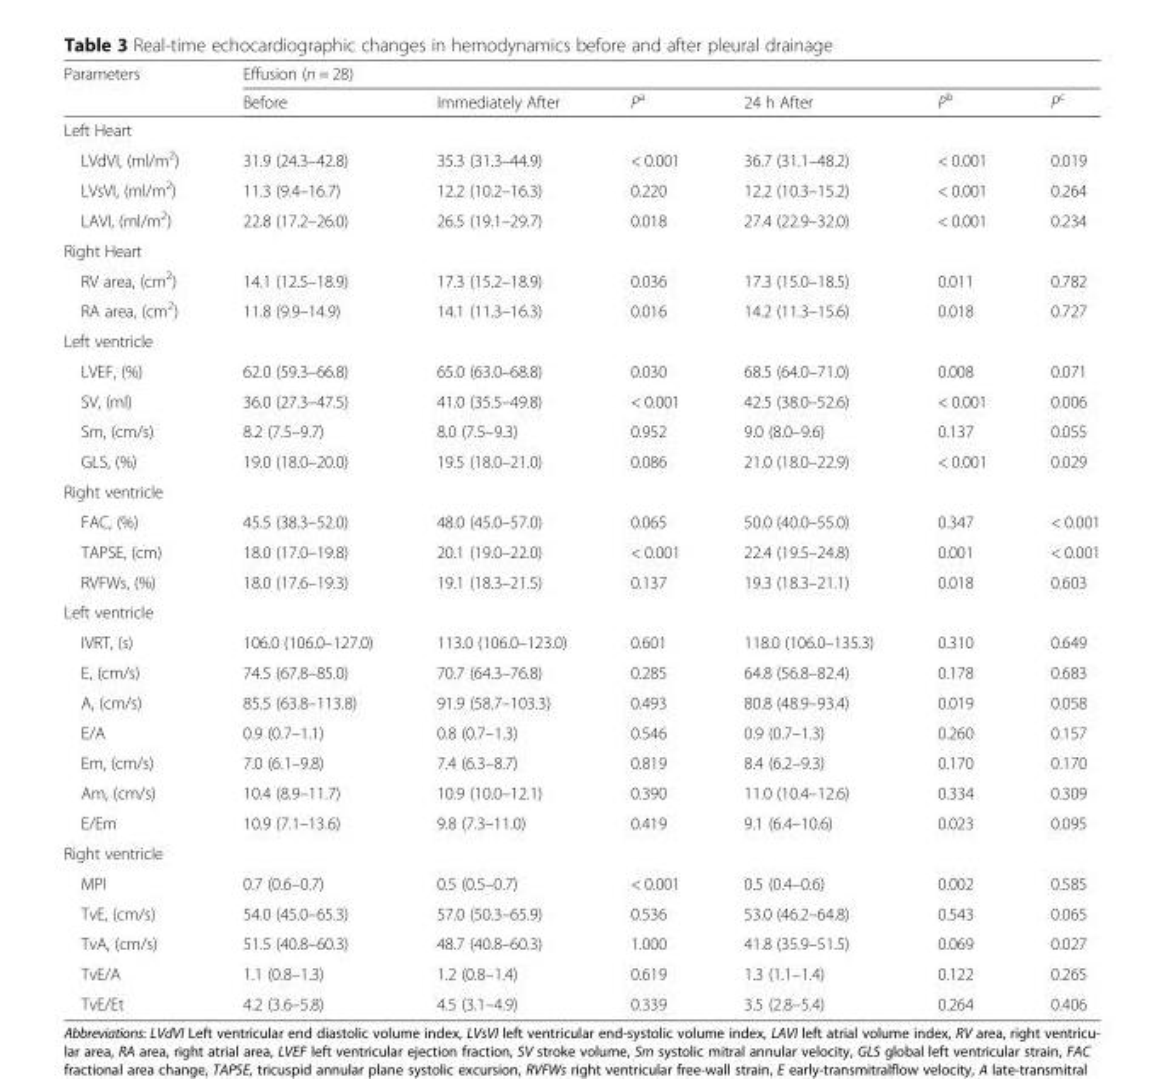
<table><thead><tr><td rowspan="2">Parameters</td><td colspan="6">Effusion (n = 28)</td></tr><tr><td>Before</td><td>Immediately After</td><td>P<sup>a</sup></td><td>24 h After</td><td>P<sup>b</sup></td><td>P<sup>c</sup></td></tr></thead><tbody><tr><td colspan="7">Left Heart</td></tr><tr><td>LVdVI, (ml/m<sup>2</sup>)</td><td>31.9 (24.3–42.8)</td><td>35.3 (31.3–44.9)</td><td>&lt; 0.001</td><td>36.7 (31.1–48.2)</td><td>&lt; 0.001</td><td>0.019</td></tr><tr><td>LVsVI, (ml/m<sup>2</sup>)</td><td>11.3 (9.4–16.7)</td><td>12.2 (10.2–16.3)</td><td>0.220</td><td>12.2 (10.3–15.2)</td><td>&lt; 0.001</td><td>0.264</td></tr><tr><td>LAVI, (ml/m<sup>2</sup>)</td><td>22.8 (17.2–26.0)</td><td>26.5 (19.1–29.7)</td><td>0.018</td><td>27.4 (22.9–32.0)</td><td>&lt; 0.001</td><td>0.234</td></tr><tr><td colspan="7">Right Heart</td></tr><tr><td>RV area, (cm<sup>2</sup>)</td><td>14.1 (12.5–18.9)</td><td>17.3 (15.2–18.9)</td><td>0.036</td><td>17.3 (15.0–18.5)</td><td>0.011</td><td>0.782</td></tr><tr><td>RA area, (cm<sup>2</sup>)</td><td>11.8 (9.9–14.9)</td><td>14.1 (11.3–16.3)</td><td>0.016</td><td>14.2 (11.3–15.6)</td><td>0.018</td><td>0.727</td></tr><tr><td colspan="7">Left ventricle</td></tr><tr><td>LVEF, (%)</td><td>62.0 (59.3–66.8)</td><td>65.0 (63.0–68.8)</td><td>0.030</td><td>68.5 (64.0–71.0)</td><td>0.008</td><td>0.071</td></tr><tr><td>SV, (ml)</td><td>36.0 (27.3–47.5)</td><td>41.0 (35.5–49.8)</td><td>&lt; 0.001</td><td>42.5 (38.0–52.6)</td><td>&lt; 0.001</td><td>0.006</td></tr><tr><td>Sm, (cm/s)</td><td>8.2 (7.5–9.7)</td><td>8.0 (7.5–9.3)</td><td>0.952</td><td>9.0 (8.0–9.6)</td><td>0.137</td><td>0.055</td></tr><tr><td>GLS, (%)</td><td>19.0 (18.0–20.0)</td><td>19.5 (18.0–21.0)</td><td>0.086</td><td>21.0 (18.0–22.9)</td><td>&lt; 0.001</td><td>0.029</td></tr><tr><td colspan="7">Right ventricle</td></tr><tr><td>FAC, (%)</td><td>45.5 (38.3–52.0)</td><td>48.0 (45.0–57.0)</td><td>0.065</td><td>50.0 (40.0–55.0)</td><td>0.347</td><td>&lt; 0.001</td></tr><tr><td>TAPSE, (cm)</td><td>18.0 (17.0–19.8)</td><td>20.1 (19.0–22.0)</td><td>&lt; 0.001</td><td>22.4 (19.5–24.8)</td><td>0.001</td><td>&lt; 0.001</td></tr><tr><td>RVFWs, (%)</td><td>18.0 (17.6–19.3)</td><td>19.1 (18.3–21.5)</td><td>0.137</td><td>19.3 (18.3–21.1)</td><td>0.018</td><td>0.603</td></tr><tr><td colspan="7">Left ventricle</td></tr><tr><td>IVRT, (s)</td><td>106.0 (106.0–127.0)</td><td>113.0 (106.0–123.0)</td><td>0.601</td><td>118.0 (106.0–135.3)</td><td>0.310</td><td>0.649</td></tr><tr><td>E, (cm/s)</td><td>74.5 (67.8–85.0)</td><td>70.7 (64.3–76.8)</td><td>0.285</td><td>64.8 (56.8–82.4)</td><td>0.178</td><td>0.683</td></tr><tr><td>A, (cm/s)</td><td>85.5 (63.8–113.8)</td><td>91.9 (58.7–103.3)</td><td>0.493</td><td>80.8 (48.9–93.4)</td><td>0.019</td><td>0.058</td></tr><tr><td>E/A</td><td>0.9 (0.7–1.1)</td><td>0.8 (0.7–1.3)</td><td>0.546</td><td>0.9 (0.7–1.3)</td><td>0.260</td><td>0.157</td></tr><tr><td>Em, (cm/s)</td><td>7.0 (6.1–9.8)</td><td>7.4 (6.3–8.7)</td><td>0.819</td><td>8.4 (6.2–9.3)</td><td>0.170</td><td>0.170</td></tr><tr><td>Am, (cm/s)</td><td>10.4 (8.9–11.7)</td><td>10.9 (10.0–12.1)</td><td>0.390</td><td>11.0 (10.4–12.6)</td><td>0.334</td><td>0.309</td></tr><tr><td>E/Em</td><td>10.9 (7.1–13.6)</td><td>9.8 (7.3–11.0)</td><td>0.419</td><td>9.1 (6.4–10.6)</td><td>0.023</td><td>0.095</td></tr><tr><td colspan="7">Right ventricle</td></tr><tr><td>MPI</td><td>0.7 (0.6–0.7)</td><td>0.5 (0.5–0.7)</td><td>&lt; 0.001</td><td>0.5 (0.4–0.6)</td><td>0.002</td><td>0.585</td></tr><tr><td>TvE, (cm/s)</td><td>54.0 (45.0–65.3)</td><td>57.0 (50.3–65.9)</td><td>0.536</td><td>53.0 (46.2–64.8)</td><td>0.543</td><td>0.065</td></tr><tr><td>TvA, (cm/s)</td><td>51.5 (40.8–60.3)</td><td>48.7 (40.8–60.3)</td><td>1.000</td><td>41.8 (35.9–51.5)</td><td>0.069</td><td>0.027</td></tr><tr><td>TvE/A</td><td>1.1 (0.8–1.3)</td><td>1.2 (0.8–1.4)</td><td>0.619</td><td>1.3 (1.1–1.4)</td><td>0.122</td><td>0.265</td></tr><tr><td>TvE/Et</td><td>4.2 (3.6–5.8)</td><td>4.5 (3.1–4.9)</td><td>0.339</td><td>3.5 (2.8–5.4)</td><td>0.264</td><td>0.406</td></tr></tbody></table>